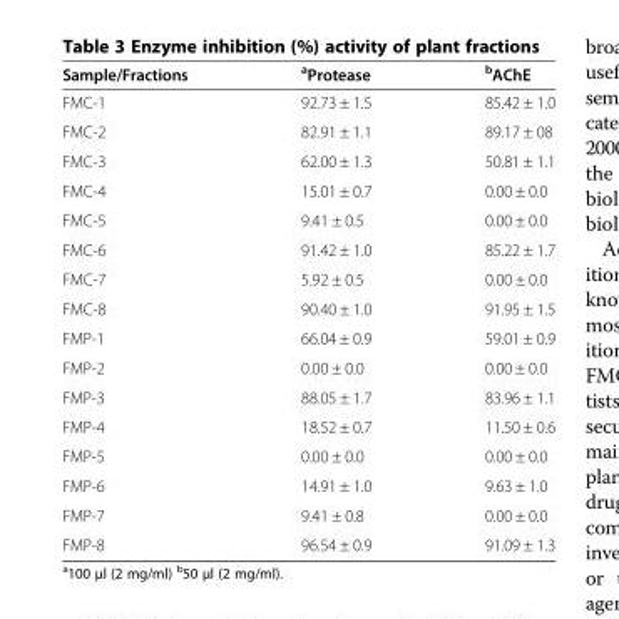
<table><thead><tr><td>Sample/Fractions</td><td><sup>a</sup>Protease</td><td><sup>b</sup>AChE</td></tr></thead><tbody><tr><td>FMC-1</td><td>92.73 ± 1.5</td><td>85.42 ± 1.0</td></tr><tr><td>FMC-2</td><td>82.91 ± 1.1</td><td>89.17 ± 08</td></tr><tr><td>FMC-3</td><td>62.00 ± 1.3</td><td>50.81 ± 1.1</td></tr><tr><td>FMC-4</td><td>15.01 ± 0.7</td><td>0.00 ± 0.0</td></tr><tr><td>FMC-5</td><td>9.41 ± 0.5</td><td>0.00 ± 0.0</td></tr><tr><td>FMC-6</td><td>91.42 ± 1.0</td><td>85.22 ± 1.7</td></tr><tr><td>FMC-7</td><td>5.92 ± 0.5</td><td>0.00 ± 0.0</td></tr><tr><td>FMC-8</td><td>90.40 ± 1.0</td><td>91.95 ± 1.5</td></tr><tr><td>FMP-1</td><td>66.04 ± 0.9</td><td>59.01 ± 0.9</td></tr><tr><td>FMP-2</td><td>0.00 ± 0.0</td><td>0.00 ± 0.0</td></tr><tr><td>FMP-3</td><td>88.05 ± 1.7</td><td>83.96 ± 1.1</td></tr><tr><td>FMP-4</td><td>18.52 ± 0.7</td><td>11.50 ± 0.6</td></tr><tr><td>FMP-5</td><td>0.00 ± 0.0</td><td>0.00 ± 0.0</td></tr><tr><td>FMP-6</td><td>14.91 ± 1.0</td><td>9.63 ± 1.0</td></tr><tr><td>FMP-7</td><td>9.41 ± 0.8</td><td>0.00 ± 0.0</td></tr><tr><td>FMP-8</td><td>96.54 ± 0.9</td><td>91.09 ± 1.3</td></tr></tbody></table>